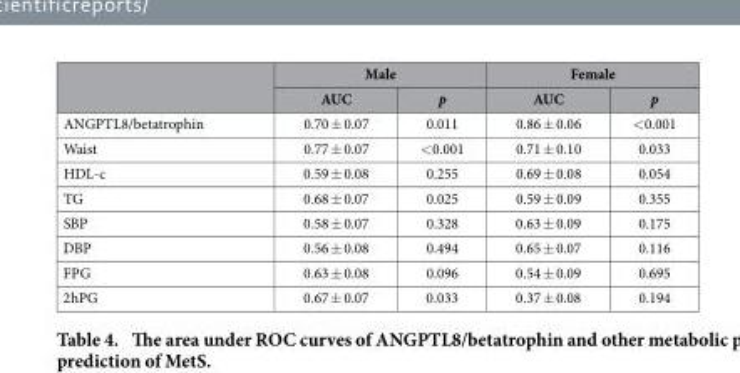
<table><thead><tr><td rowspan="2"></td><td colspan="2">Male</td><td colspan="2">Female</td></tr><tr><td>AUC</td><td>p</td><td>AUC</td><td>p</td></tr></thead><tbody><tr><td>ANGPTL8/betatrophin</td><td>0.70 ± 0.07</td><td>0.011</td><td>0.86 ± 0.06</td><td>&lt; 0.001</td></tr><tr><td>Waist</td><td>0.77 ± 0.07</td><td>&lt; 0.001</td><td>0.71 ± 0.10</td><td>0.033</td></tr><tr><td>HDL-c</td><td>0.59 ± 0.08</td><td>0.255</td><td>0.69 ± 0.08</td><td>0.054</td></tr><tr><td>TG</td><td>0.68 ± 0.07</td><td>0.025</td><td>0.59 ± 0.09</td><td>0.355</td></tr><tr><td>SBP</td><td>0.58 ± 0.07</td><td>0.328</td><td>0.63 ± 0.09</td><td>0.175</td></tr><tr><td>DBP</td><td>0.56 ± 0.08</td><td>0.494</td><td>0.65 ± 0.07</td><td>0.116</td></tr><tr><td>FPG</td><td>0.63 ± 0.08</td><td>0.096</td><td>0.54 ± 0.09</td><td>0.695</td></tr><tr><td>2hPG</td><td>0.67 ± 0.07</td><td>0.033</td><td>0.37 ± 0.08</td><td>0.194</td></tr></tbody></table>